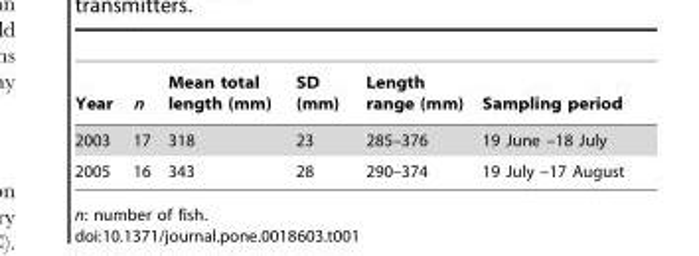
<table><thead><tr><td>Year</td><td>n</td><td>Mean total length (mm)</td><td>SD (mm)</td><td>Length range (mm)</td><td>Sampling period</td></tr></thead><tbody><tr><td>2003</td><td>17</td><td>318</td><td>23</td><td>285–376</td><td>19 June –18 July</td></tr><tr><td>2005</td><td>16</td><td>343</td><td>28</td><td>290–374</td><td>19 July –17 August</td></tr></tbody></table>